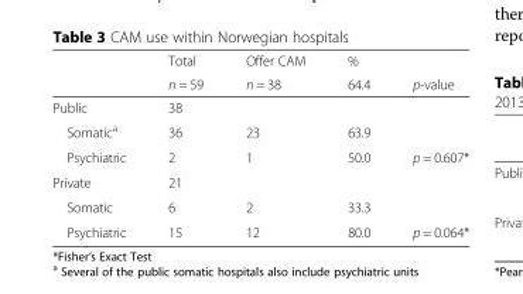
<table><thead><tr><td rowspan="2"></td><td rowspan="2">Total n = 59</td><td rowspan="2">Offer CAM n = 38</td><td rowspan="2">% 64.4</td><td rowspan="2">p-value</td></tr><tr></tr></thead><tbody><tr><td>Public</td><td>38</td><td></td><td></td><td></td></tr><tr><td>Somatic<sup>a</sup></td><td>36</td><td>23</td><td>63.9</td><td></td></tr><tr><td>Psychiatric</td><td>2</td><td>1</td><td>50.0</td><td>p = 0.607*</td></tr><tr><td>Private</td><td>21</td><td></td><td></td><td></td></tr><tr><td>Somatic</td><td>6</td><td>2</td><td>33.3</td><td></td></tr><tr><td>Psychiatric</td><td>15</td><td>12</td><td>80.0</td><td>p = 0.064*</td></tr></tbody></table>